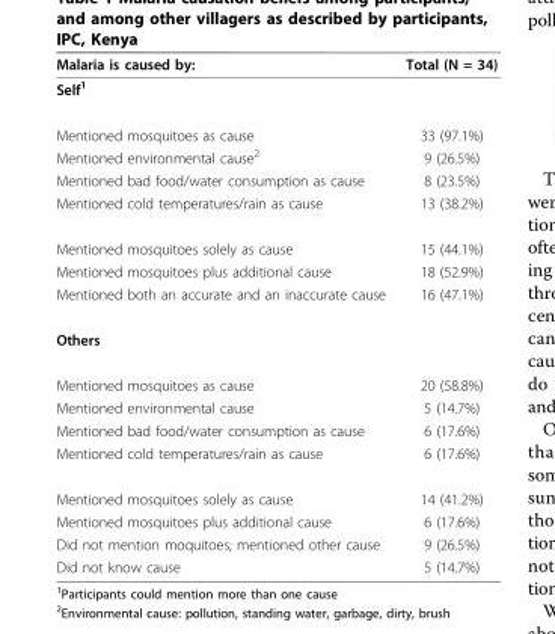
<table><thead><tr><td>Malaria is caused by:</td><td>Total (N = 34)</td></tr></thead><tbody><tr><td colspan="2">Self<sup>1</sup></td></tr><tr><td>Mentioned mosquitoes as cause</td><td>33 (97.1%)</td></tr><tr><td>Mentioned environmental cause<sup>2</sup></td><td>9 (26.5%)</td></tr><tr><td>Mentioned bad food/water consumption as cause</td><td>8 (23.5%)</td></tr><tr><td>Mentioned cold temperatures/rain as cause</td><td>13 (38.2%)</td></tr><tr><td>Mentioned mosquitoes solely as cause</td><td>15 (44.1%)</td></tr><tr><td>Mentioned mosquitoes plus additional cause</td><td>18 (52.9%)</td></tr><tr><td>Mentioned both an accurate and an inaccurate cause</td><td>16 (47.1%)</td></tr><tr><td colspan="2">Others</td></tr><tr><td>Mentioned mosquitoes as cause</td><td>20 (58.8%)</td></tr><tr><td>Mentioned environmental cause</td><td>5 (14.7%)</td></tr><tr><td>Mentioned bad food/water consumption as cause</td><td>6 (17.6%)</td></tr><tr><td>Mentioned cold temperatures/rain as cause</td><td>6 (17.6%)</td></tr><tr><td>Mentioned mosquitoes solely as cause</td><td>14 (41.2%)</td></tr><tr><td>Mentioned mosquitoes plus additional cause</td><td>6 (17.6%)</td></tr><tr><td>Did not mention moquitoes; mentioned other cause</td><td>9 (26.5%)</td></tr><tr><td>Did not know cause</td><td>5 (14.7%)</td></tr></tbody></table>